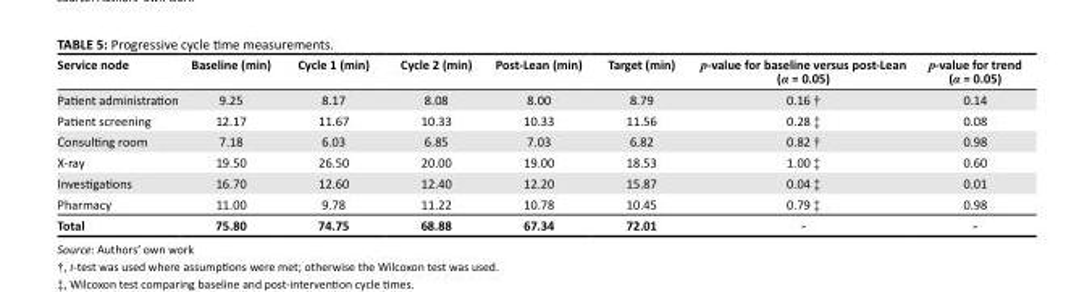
<table><thead><tr><td>Service node</td><td>Baseline (min)</td><td>Cycle 1 (min)</td><td>Cycle 2 (min)</td><td>Post-Lean (min)</td><td>Target (min)</td><td>p-value for baseline versus post-Lean (α = 0.05)</td><td>p-value for trend (α = 0.05)</td></tr></thead><tbody><tr><td>Patient administration</td><td>9.25</td><td>8.17</td><td>8.08</td><td>8.00</td><td>8.79</td><td>0.16 †</td><td>0.14</td></tr><tr><td>Patient screening</td><td>12.17</td><td>11.67</td><td>10.33</td><td>10.33</td><td>11.56</td><td>0.28 ‡</td><td>0.08</td></tr><tr><td>Consulting room</td><td>7.18</td><td>6.03</td><td>6.85</td><td>7.03</td><td>6.82</td><td>0.82 †</td><td>0.98</td></tr><tr><td>X-ray</td><td>19.50</td><td>26.50</td><td>20.00</td><td>19.00</td><td>18.53</td><td>1.00 ‡</td><td>0.60</td></tr><tr><td>Investigations</td><td>16.70</td><td>12.60</td><td>12.40</td><td>12.20</td><td>15.87</td><td>0.04 ‡</td><td>0.01</td></tr><tr><td>Pharmacy</td><td>11.00</td><td>9.78</td><td>11.22</td><td>10.78</td><td>10.45</td><td>0.79 ‡</td><td>0.98</td></tr><tr><td>Total</td><td>75.80</td><td>74.75</td><td>68.88</td><td>67.34</td><td>72.01</td><td>-</td><td>-</td></tr></tbody></table>